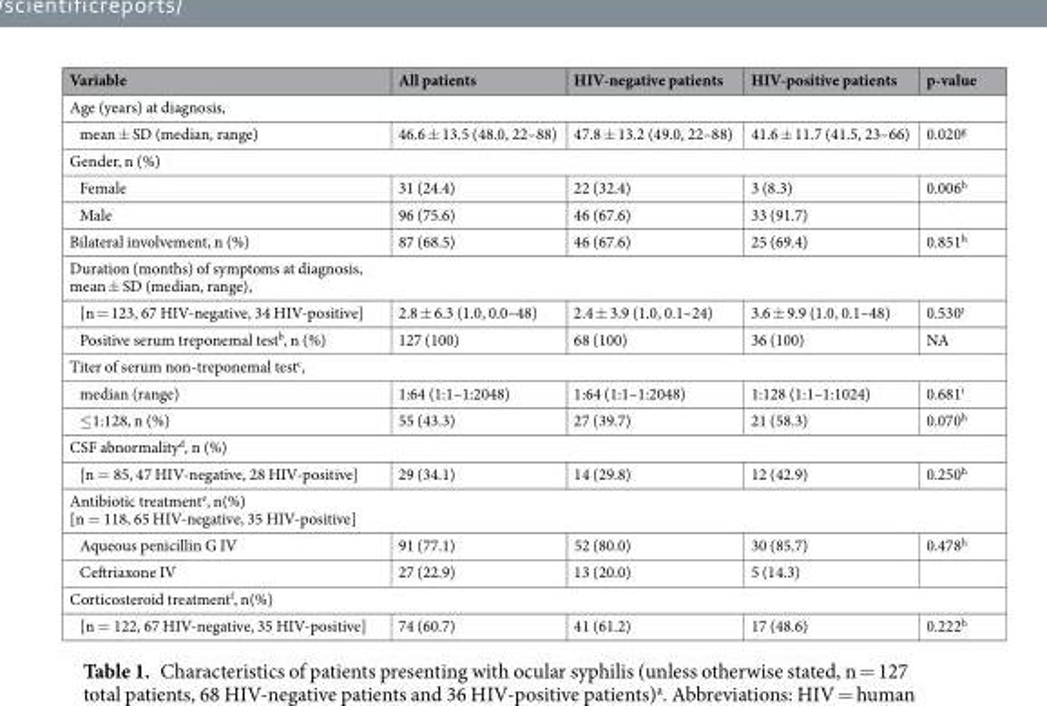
<table><thead><tr><td>Variable</td><td>All patients</td><td>HIV-negative patients</td><td>HIV-positive patients</td><td>p-value</td></tr></thead><tbody><tr><td colspan="5">Age (years) at diagnosis,</td></tr><tr><td>mean ± SD (median, range)</td><td>46.6 ± 13.5 (48.0, 22–88)</td><td>47.8 ± 13.2 (49.0, 22–88)</td><td>41.6 ± 11.7 (41.5, 23–66)</td><td>0.020<sup>g</sup></td></tr><tr><td colspan="5">Gender, n (%)</td></tr><tr><td>Female</td><td>31 (24.4)</td><td>22 (32.4)</td><td>3 (8.3)</td><td>0.006<sup>h</sup></td></tr><tr><td>Male</td><td>96 (75.6)</td><td>46 (67.6)</td><td>33 (91.7)</td><td></td></tr><tr><td>Bilateral involvement, n (%)</td><td>87 (68.5)</td><td>46 (67.6)</td><td>25 (69.4)</td><td>0.851<sup>h</sup></td></tr><tr><td colspan="5">Duration (months) of symptoms at diagnosis, mean ± SD (median, range),</td></tr><tr><td>[n = 123, 67 HIV-negative, 34 HIV-positive]</td><td>2.8 ± 6.3 (1.0, 0.0–48)</td><td>2.4 ± 3.9 (1.0, 0.1–24)</td><td>3.6 ± 9.9 (1.0, 0.1–48)</td><td>0.530<sup>i</sup></td></tr><tr><td>Positive serum treponemal test<sup>b</sup>, n (%)</td><td>127 (100)</td><td>68 (100)</td><td>36 (100)</td><td>NA</td></tr><tr><td colspan="5">Titer of serum non-treponemal test<sup>c</sup>,</td></tr><tr><td>median (range)</td><td>1:64 (1:1–1:2048)</td><td>1:64 (1:1–1:2048)</td><td>1:128 (1:1–1:1024)</td><td>0.681<sup>i</sup></td></tr><tr><td>≤1:128, n (%)</td><td>55 (43.3)</td><td>27 (39.7)</td><td>21 (58.3)</td><td>0.070<sup>h</sup></td></tr><tr><td colspan="5">CSF abnormality<sup>d</sup>, n (%)</td></tr><tr><td>[n = 85, 47 HIV-negative, 28 HIV-positive]</td><td>29 (34.1)</td><td>14 (29.8)</td><td>12 (42.9)</td><td>0.250<sup>h</sup></td></tr><tr><td colspan="5">Antibiotic treatment<sup>e</sup>, n(%) [n = 118, 65 HIV-negative, 35 HIV-positive]</td></tr><tr><td>Aqueous penicillin G IV</td><td>91 (77.1)</td><td>52 (80.0)</td><td>30 (85.7)</td><td>0.478<sup>h</sup></td></tr><tr><td>Ceftriaxone IV</td><td>27 (22.9)</td><td>13 (20.0)</td><td>5 (14.3)</td><td></td></tr><tr><td colspan="5">Corticosteroid treatment<sup>f</sup>, n(%)</td></tr><tr><td>[n = 122, 67 HIV-negative, 35 HIV-positive]</td><td>74 (60.7)</td><td>41 (61.2)</td><td>17 (48.6)</td><td>0.222<sup>h</sup></td></tr></tbody></table>